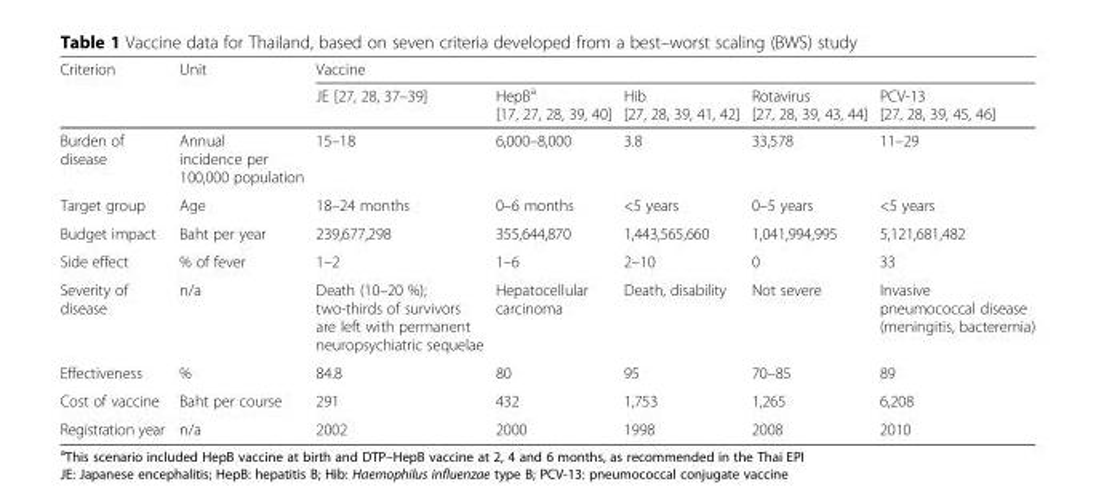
<table><thead><tr><td rowspan="2">Criterion</td><td rowspan="2">Unit</td><td colspan="5">Vaccine</td></tr><tr><td>JE [27, 28, 37–39]</td><td>HepB<sup>a</sup> [17, 27, 28, 39, 40]</td><td>Hib [27, 28, 39, 41, 42]</td><td>Rotavirus [27, 28, 39, 43, 44]</td><td>PCV-13 [27, 28, 39, 45, 46]</td></tr></thead><tbody><tr><td>Burden of disease</td><td>Annual incidence per 100,000 population</td><td>15–18</td><td>6,000–8,000</td><td>3.8</td><td>33,578</td><td>11–29</td></tr><tr><td>Target group</td><td>Age</td><td>18–24 months</td><td>0–6 months</td><td>&lt;5 years</td><td>0–5 years</td><td>&lt;5 years</td></tr><tr><td>Budget impact</td><td>Baht per year</td><td>239,677,298</td><td>355,644,870</td><td>1,443,565,660</td><td>1,041,994,995</td><td>5,121,681,482</td></tr><tr><td>Side effect</td><td>% of fever</td><td>1–2</td><td>1–6</td><td>2–10</td><td>0</td><td>33</td></tr><tr><td>Severity of disease</td><td>n/a</td><td>Death (10–20 %); two-thirds of survivors are left with permanent neuropsychiatric sequelae</td><td>Hepatocellular carcinoma</td><td>Death, disability</td><td>Not severe</td><td>Invasive pneumococcal disease (meningitis, bacteremia)</td></tr><tr><td>Effectiveness</td><td>%</td><td>84.8</td><td>80</td><td>95</td><td>70–85</td><td>89</td></tr><tr><td>Cost of vaccine</td><td>Baht per course</td><td>291</td><td>432</td><td>1,753</td><td>1,265</td><td>6,208</td></tr><tr><td>Registration year</td><td>n/a</td><td>2002</td><td>2000</td><td>1998</td><td>2008</td><td>2010</td></tr></tbody></table>